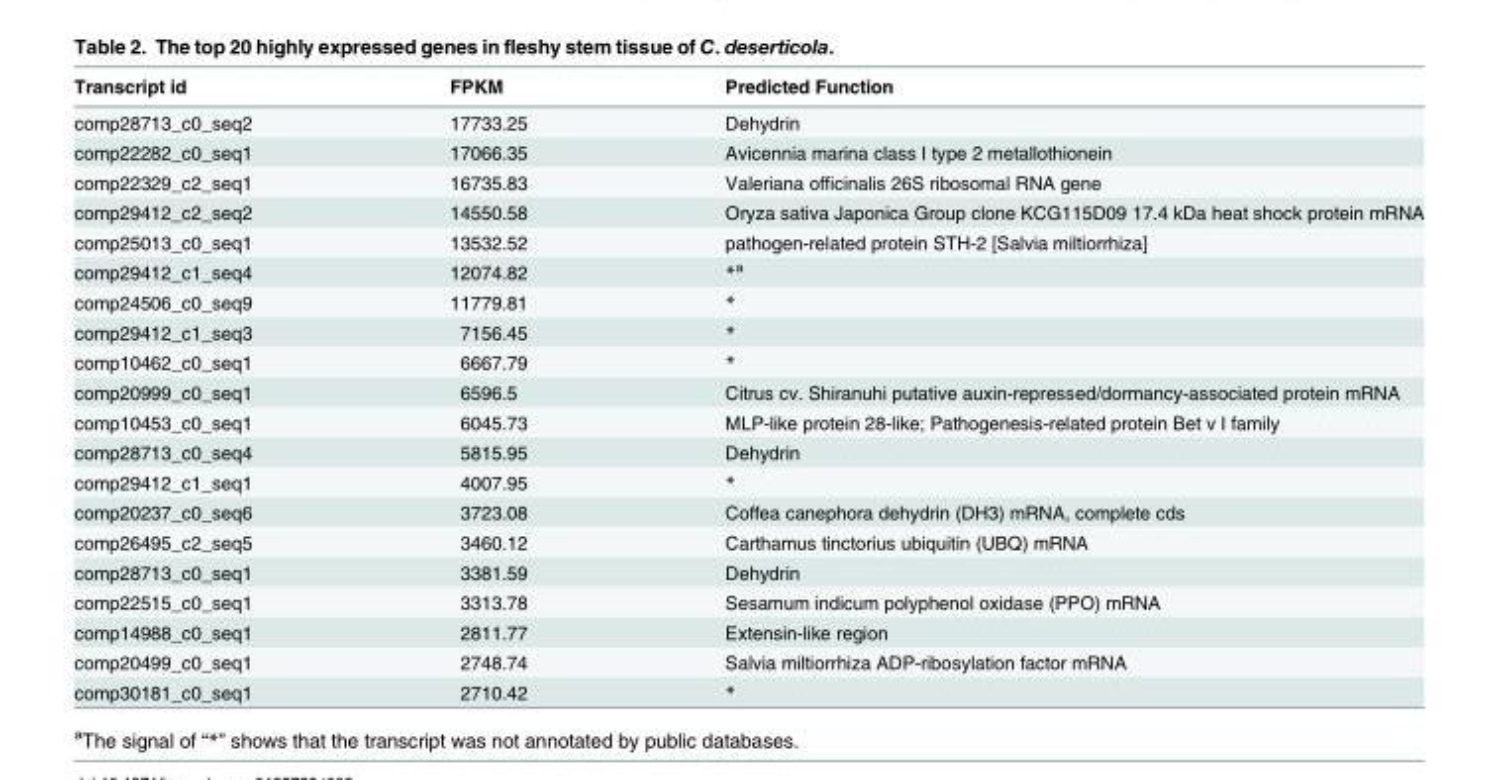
<table><thead><tr><td>Transcript id</td><td>FPKM</td><td>Predicted Function</td></tr></thead><tbody><tr><td>comp28713_c0_seq2</td><td>17733.25</td><td>Dehydrin</td></tr><tr><td>comp22282_c0_seq1</td><td>17066.35</td><td>Avicennia marina class I type 2 metallothionein</td></tr><tr><td>comp22329_c2_seq1</td><td>16735.83</td><td>Valeriana officinalis 26S ribosomal RNA gene</td></tr><tr><td>comp29412_c2_seq2</td><td>14550.58</td><td>Oryza sativa Japonica Group clone KCG115D09 17.4 kDa heat shock protein mRNA</td></tr><tr><td>comp25013_c0_seq1</td><td>13532.52</td><td>pathogen-related protein STH-2 [Salvia miltiorrhiza]</td></tr><tr><td>comp29412_c1_seq4</td><td>12074.82</td><td>*<sup>a</sup></td></tr><tr><td>comp24506_c0_seq9</td><td>11779.81</td><td>*</td></tr><tr><td>comp29412_c1_seq3</td><td>7156.45</td><td>*</td></tr><tr><td>comp10462_c0_seq1</td><td>6667.79</td><td>*</td></tr><tr><td>comp20999_c0_seq1</td><td>6596.5</td><td>Citrus cv. Shiranuhi putative auxin-repressed/dormancy-associated protein mRNA</td></tr><tr><td>comp10453_c0_seq1</td><td>6045.73</td><td>MLP-like protein 28-like; Pathogenesis-related protein Bet v I family</td></tr><tr><td>comp28713_c0_seq4</td><td>5815.95</td><td>Dehydrin</td></tr><tr><td>comp29412_c1_seq1</td><td>4007.95</td><td>*</td></tr><tr><td>comp20237_c0_seq6</td><td>3723.08</td><td>Coffea canephora dehydrin (DH3) mRNA, complete cds</td></tr><tr><td>comp26495_c2_seq5</td><td>3460.12</td><td>Carthamus tinctorius ubiquitin (UBQ) mRNA</td></tr><tr><td>comp28713_c0_seq1</td><td>3381.59</td><td>Dehydrin</td></tr><tr><td>comp22515_c0_seq1</td><td>3313.78</td><td>Sesamum indicum polyphenol oxidase (PPO) mRNA</td></tr><tr><td>comp14988_c0_seq1</td><td>2811.77</td><td>Extensin-like region</td></tr><tr><td>comp20499_c0_seq1</td><td>2748.74</td><td>Salvia miltiorrhiza ADP-ribosylation factor mRNA</td></tr><tr><td>comp30181_c0_seq1</td><td>2710.42</td><td>*</td></tr></tbody></table>